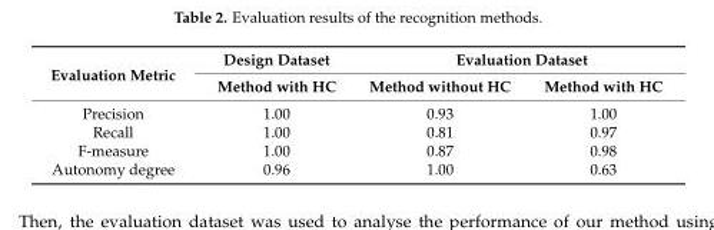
<table><thead><tr><td rowspan="2">Evaluation Metric</td><td rowspan="2">Design Dataset Method with HC</td><td colspan="2">Evaluation Dataset</td></tr><tr><td>Method without HC</td><td>Method with HC</td></tr></thead><tbody><tr><td>Precision</td><td>1.00</td><td>0.93</td><td>1.00</td></tr><tr><td>Recall</td><td>1.00</td><td>0.81</td><td>0.97</td></tr><tr><td>F-measure</td><td>1.00</td><td>0.87</td><td>0.98</td></tr><tr><td>Autonomy degree</td><td>0.96</td><td>1.00</td><td>0.63</td></tr></tbody></table>